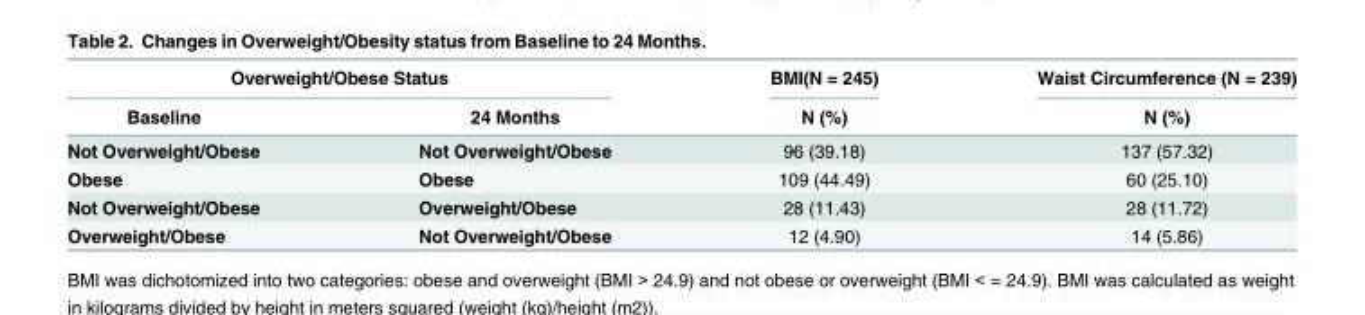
<table><thead><tr><td colspan="2">Overweight/Obese Status</td><td rowspan="2">BMI(N = 245) N (%)</td><td rowspan="2">Waist Circumference (N = 239) N (%)</td></tr><tr><td>Baseline</td><td>24 Months</td></tr></thead><tbody><tr><td>Not Overweight/Obese</td><td>Not Overweight/Obese</td><td>96 (39.18)</td><td>137 (57.32)</td></tr><tr><td>Obese</td><td>Obese</td><td>109 (44.49)</td><td>60 (25.10)</td></tr><tr><td>Not Overweight/Obese</td><td>Overweight/Obese</td><td>28 (11.43)</td><td>28 (11.72)</td></tr><tr><td>Overweight/Obese</td><td>Not Overweight/Obese</td><td>12 (4.90)</td><td>14 (5.86)</td></tr></tbody></table>